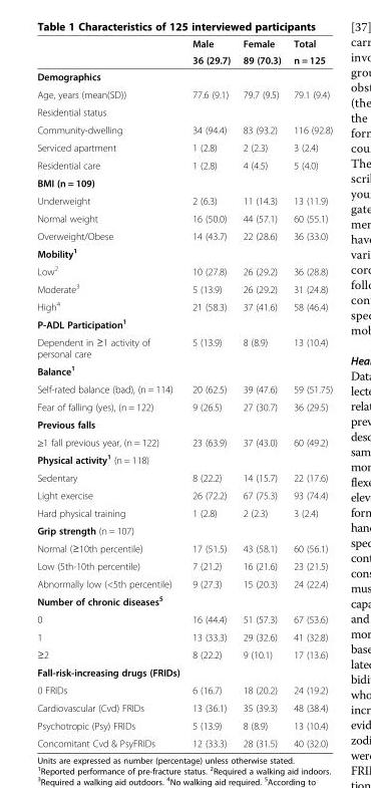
<table><thead><tr><td rowspan="2"></td><td rowspan="2">Male 36 (29.7)</td><td rowspan="2">Female 89 (70.3)</td><td rowspan="2">Total n = 125</td></tr><tr></tr></thead><tbody><tr><td colspan="4">Demographics</td></tr><tr><td>Age, years (mean(SD))</td><td>77.6 (9.1)</td><td>79.7 (9.5)</td><td>79.1 (9.4)</td></tr><tr><td colspan="4">Residential status</td></tr><tr><td>Community-dwelling</td><td>34 (94.4)</td><td>83 (93.2)</td><td>116 (92.8)</td></tr><tr><td>Serviced apartment</td><td>1 (2.8)</td><td>2 (2.3)</td><td>3 (2.4)</td></tr><tr><td>Residential care</td><td>1 (2.8)</td><td>4 (4.5)</td><td>5 (4.0)</td></tr><tr><td colspan="4">BMI (n = 109)</td></tr><tr><td>Underweight</td><td>2 (6.3)</td><td>11 (14.3)</td><td>13 (11.9)</td></tr><tr><td>Normal weight</td><td>16 (50.0)</td><td>44 (57.1)</td><td>60 (55.1)</td></tr><tr><td>Overweight/Obese</td><td>14 (43.7)</td><td>22 (28.6)</td><td>36 (33.0)</td></tr><tr><td colspan="4">Mobility<sup>1</sup></td></tr><tr><td>Low<sup>2</sup></td><td>10 (27.8)</td><td>26 (29.2)</td><td>36 (28.8)</td></tr><tr><td>Moderate<sup>3</sup></td><td>5 (13.9)</td><td>26 (29.2)</td><td>31 (24.8)</td></tr><tr><td>High<sup>4</sup></td><td>21 (58.3)</td><td>37 (41.6)</td><td>58 (46.4)</td></tr><tr><td colspan="4">P-ADL Participation<sup>1</sup></td></tr><tr><td>Dependent in ≥1 activity of personal care</td><td>5 (13.9)</td><td>8 (8.9)</td><td>13 (10.4)</td></tr><tr><td colspan="4">Balance<sup>1</sup></td></tr><tr><td>Self-rated balance (bad), (n = 114)</td><td>20 (62.5)</td><td>39 (47.6)</td><td>59 (51.75)</td></tr><tr><td>Fear of falling (yes), (n = 122)</td><td>9 (26.5)</td><td>27 (30.7)</td><td>36 (29.5)</td></tr><tr><td colspan="4">Previous falls</td></tr><tr><td>≥1 fall previous year, (n = 122)</td><td>23 (63.9)</td><td>37 (43.0)</td><td>60 (49.2)</td></tr><tr><td colspan="4">Physical activity<sup>1</sup> (n = 118)</td></tr><tr><td>Sedentary</td><td>8 (22.2)</td><td>14 (15.7)</td><td>22 (17.6)</td></tr><tr><td>Light exercise</td><td>26 (72.2)</td><td>67 (75.3)</td><td>93 (74.4)</td></tr><tr><td>Hard physical training</td><td>1 (2.8)</td><td>2 (2.3)</td><td>3 (2.4)</td></tr><tr><td colspan="4">Grip strength (n = 107)</td></tr><tr><td>Normal (≥10th percentile)</td><td>17 (51.5)</td><td>43 (58.1)</td><td>60 (56.1)</td></tr><tr><td>Low (5th-10th percentile)</td><td>7 (21.2)</td><td>16 (21.6)</td><td>23 (21.5)</td></tr><tr><td>Abnormally low (&lt;5th percentile)</td><td>9 (27.3)</td><td>15 (20.3)</td><td>24 (22.4)</td></tr><tr><td colspan="4">Number of chronic diseases<sup>5</sup></td></tr><tr><td>0</td><td>16 (44.4)</td><td>51 (57.3)</td><td>67 (53.6)</td></tr><tr><td>1</td><td>13 (33.3)</td><td>29 (32.6)</td><td>41 (32.8)</td></tr><tr><td>≥2</td><td>8 (22.2)</td><td>9 (10.1)</td><td>17 (13.6)</td></tr><tr><td colspan="4">Fall-risk-increasing drugs (FRIDs)</td></tr><tr><td>0 FRIDs</td><td>6 (16.7)</td><td>18 (20.2)</td><td>24 (19.2)</td></tr><tr><td>Cardiovascular (Cvd) FRIDs</td><td>13 (36.1)</td><td>35 (39.3)</td><td>48 (38.4)</td></tr><tr><td>Psychotropic (Psy) FRIDs</td><td>5 (13.9)</td><td>8 (8.9)</td><td>13 (10.4)</td></tr><tr><td>Concomitant Cvd &amp; PsyFRIDs</td><td>12 (33.3)</td><td>28 (31.5)</td><td>40 (32.0)</td></tr></tbody></table>